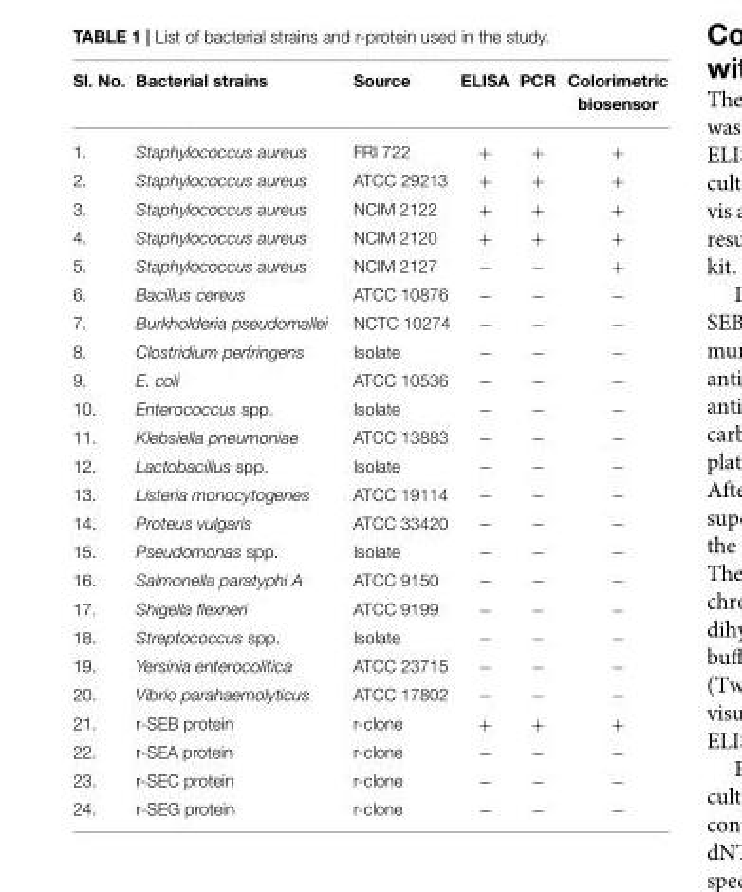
<table><thead><tr><td>Sl. No.</td><td>Bacterial strains</td><td>Source</td><td>ELISA</td><td>PCR</td><td>Colorimetric biosensor</td></tr></thead><tbody><tr><td>1.</td><td>Staphylococcus aureus</td><td>FRI 722</td><td>+</td><td>+</td><td>+</td></tr><tr><td>2.</td><td>Staphylococcus aureus</td><td>ATCC 29213</td><td>+</td><td>+</td><td>+</td></tr><tr><td>3.</td><td>Staphylococcus aureus</td><td>NCIM 2122</td><td>+</td><td>+</td><td>+</td></tr><tr><td>4.</td><td>Staphylococcus aureus</td><td>NCIM 2120</td><td>+</td><td>+</td><td>+</td></tr><tr><td>5.</td><td>Staphylococcus aureus</td><td>NCIM 2127</td><td>−</td><td>−</td><td>+</td></tr><tr><td>6.</td><td>Bacillus cereus</td><td>ATCC 10876</td><td>−</td><td>−</td><td>−</td></tr><tr><td>7.</td><td>Burkholderia pseudomallei</td><td>NCTC 10274</td><td>−</td><td>−</td><td>−</td></tr><tr><td>8.</td><td>Clostridium perfringens</td><td>Isolate</td><td>−</td><td>−</td><td>−</td></tr><tr><td>9.</td><td>E. coli</td><td>ATCC 10536</td><td>−</td><td>−</td><td>−</td></tr><tr><td>10.</td><td>Enterococcus spp.</td><td>Isolate</td><td>−</td><td>−</td><td>−</td></tr><tr><td>11.</td><td>Klebsiella pneumoniae</td><td>ATCC 13883</td><td>−</td><td>−</td><td>−</td></tr><tr><td>12.</td><td>Lactobacillus spp.</td><td>Isolate</td><td>−</td><td>−</td><td>−</td></tr><tr><td>13.</td><td>Listeria monocytogenes</td><td>ATCC 19114</td><td>−</td><td>−</td><td>−</td></tr><tr><td>14.</td><td>Proteus vulgaris</td><td>ATCC 33420</td><td>−</td><td>−</td><td>−</td></tr><tr><td>15.</td><td>Pseudomonas spp.</td><td>Isolate</td><td>−</td><td>−</td><td>−</td></tr><tr><td>16.</td><td>Salmonella paratyphi A</td><td>ATCC 9150</td><td>−</td><td>−</td><td>−</td></tr><tr><td>17.</td><td>Shigella flexneri</td><td>ATCC 9199</td><td>−</td><td>−</td><td>−</td></tr><tr><td>18.</td><td>Streptococcus spp.</td><td>Isolate</td><td>−</td><td>−</td><td>−</td></tr><tr><td>19.</td><td>Yersinia enterocolitica</td><td>ATCC 23715</td><td>−</td><td>−</td><td>−</td></tr><tr><td>20.</td><td>Vibrio parahaemolyticus</td><td>ATCC 17802</td><td>−</td><td>−</td><td>−</td></tr><tr><td>21.</td><td>r-SEB protein</td><td>r-clone</td><td>+</td><td>+</td><td>+</td></tr><tr><td>22.</td><td>r-SEA protein</td><td>r-clone</td><td>−</td><td>−</td><td>−</td></tr><tr><td>23.</td><td>r-SEC protein</td><td>r-clone</td><td>−</td><td>−</td><td>−</td></tr><tr><td>24.</td><td>r-SEG protein</td><td>r-clone</td><td>−</td><td>−</td><td>−</td></tr></tbody></table>